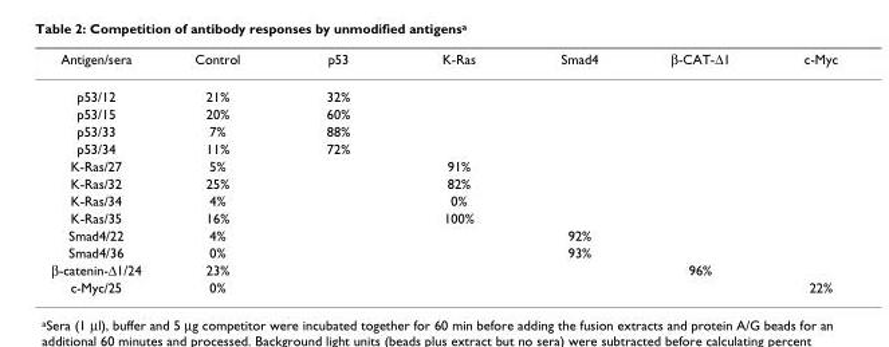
<table><thead><tr><td>Antigen/sera</td><td>Control</td><td>p53</td><td>K-Ras</td><td>Smad4</td><td>β-CAT-∆1</td><td>c-Myc</td></tr></thead><tbody><tr><td>p53/12</td><td>21%</td><td>32%</td><td></td><td></td><td></td><td></td></tr><tr><td>p53/15</td><td>20%</td><td>60%</td><td></td><td></td><td></td><td></td></tr><tr><td>p53/33</td><td>7%</td><td>88%</td><td></td><td></td><td></td><td></td></tr><tr><td>p53/34</td><td>11%</td><td>72%</td><td></td><td></td><td></td><td></td></tr><tr><td>K-Ras/27</td><td>5%</td><td></td><td>91%</td><td></td><td></td><td></td></tr><tr><td>K-Ras/32</td><td>25%</td><td></td><td>82%</td><td></td><td></td><td></td></tr><tr><td>K-Ras/34</td><td>4%</td><td></td><td>0%</td><td></td><td></td><td></td></tr><tr><td>K-Ras/35</td><td>16%</td><td></td><td>100%</td><td></td><td></td><td></td></tr><tr><td>Smad4/22</td><td>4%</td><td></td><td></td><td>92%</td><td></td><td></td></tr><tr><td>Smad4/36</td><td>0%</td><td></td><td></td><td>93%</td><td></td><td></td></tr><tr><td>β-catenin-∆1/24</td><td>23%</td><td></td><td></td><td></td><td>96%</td><td></td></tr><tr><td>c-Myc/25</td><td>0%</td><td></td><td></td><td></td><td></td><td>22%</td></tr></tbody></table>